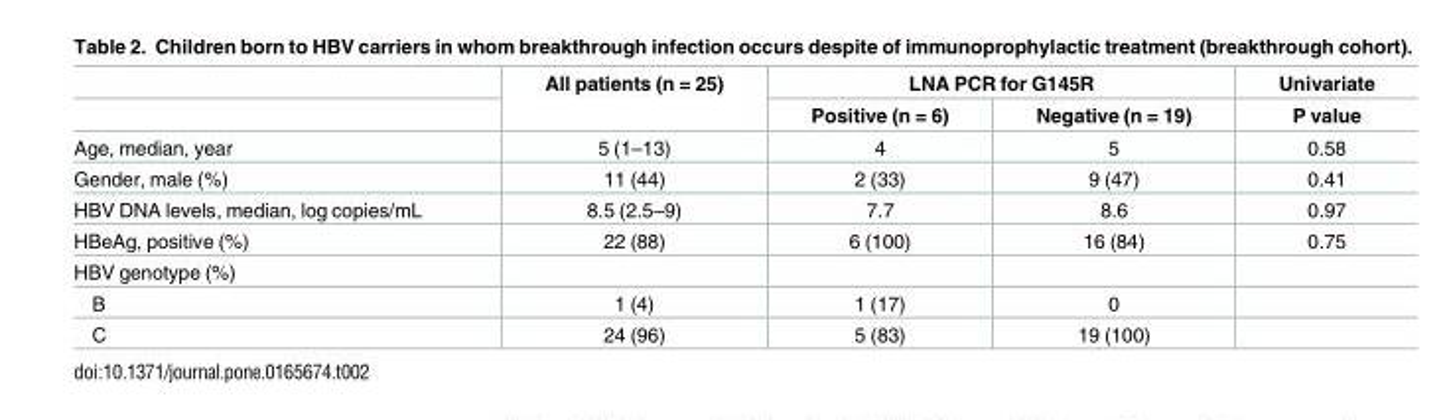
<table><thead><tr><td rowspan="2"></td><td rowspan="2">All patients (n = 25)</td><td colspan="2">LNA PCR for G145R</td><td rowspan="2">Univariate P value</td></tr><tr><td>Positive (n = 6)</td><td>Negative (n = 19)</td></tr></thead><tbody><tr><td>Age, median, year</td><td>5 (1–13)</td><td>4</td><td>5</td><td>0.58</td></tr><tr><td>Gender, male (%)</td><td>11 (44)</td><td>2 (33)</td><td>9 (47)</td><td>0.41</td></tr><tr><td>HBV DNA levels, median, log copies/mL</td><td>8.5 (2.5–9)</td><td>7.7</td><td>8.6</td><td>0.97</td></tr><tr><td>HBeAg, positive (%)</td><td>22 (88)</td><td>6 (100)</td><td>16 (84)</td><td>0.75</td></tr><tr><td colspan="5">HBV genotype (%)</td></tr><tr><td>B</td><td>1 (4)</td><td>1 (17)</td><td>0</td><td></td></tr><tr><td>C</td><td>24 (96)</td><td>5 (83)</td><td>19 (100)</td><td></td></tr></tbody></table>